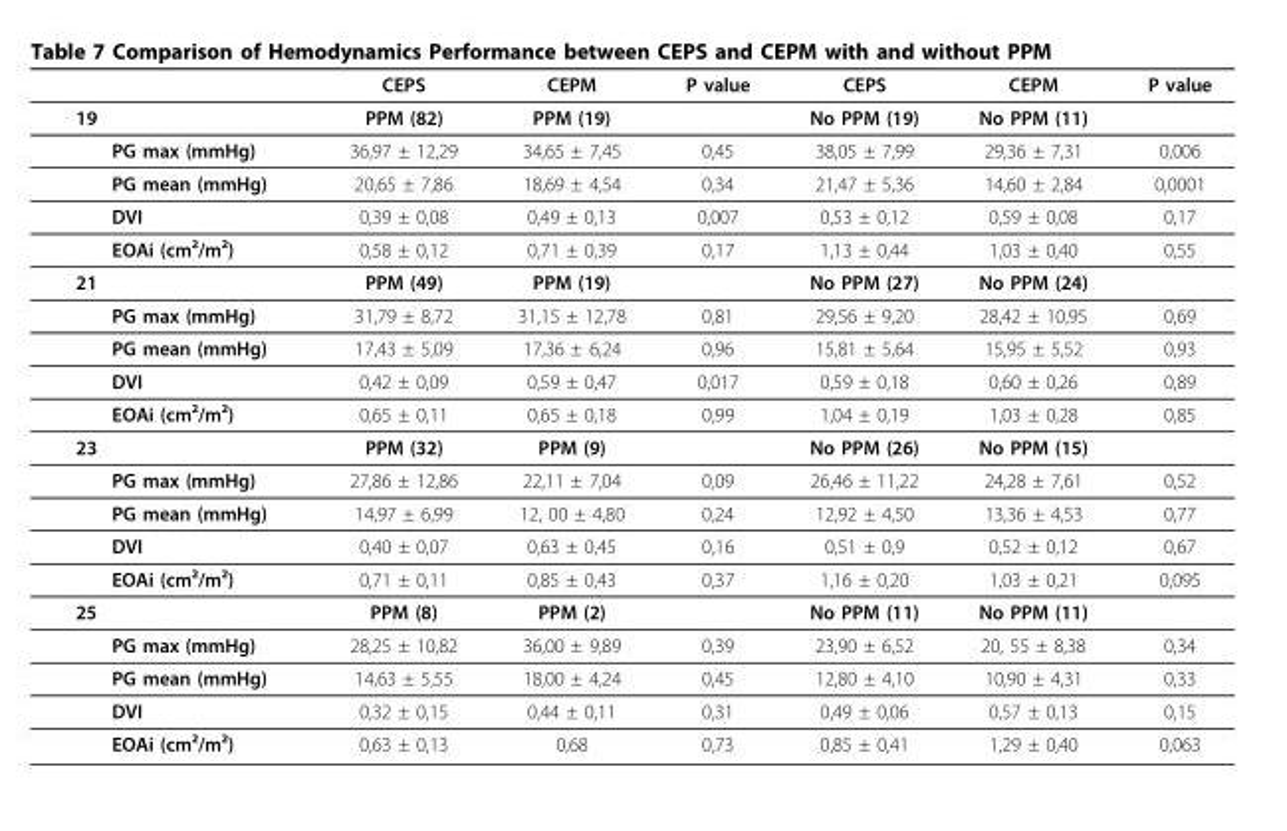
<table><thead><tr><td></td><td></td><td>CEPS</td><td>CEPM</td><td>P value</td><td>CEPS</td><td>CEPM</td><td>P value</td></tr></thead><tbody><tr><td rowspan="5">19</td><td></td><td>PPM (82)</td><td>PPM (19)</td><td></td><td>No PPM (19)</td><td>No PPM (11)</td><td></td></tr><tr><td>PG max (mmHg)</td><td>36,97 ± 12,29</td><td>34,65 ± 7,45</td><td>0,45</td><td>38,05 ± 7,99</td><td>29,36 ± 7,31</td><td>0,006</td></tr><tr><td>PG mean (mmHg)</td><td>20,65 ± 7,86</td><td>18,69 ± 4,54</td><td>0,34</td><td>21,47 ± 5,36</td><td>14,60 ± 2,84</td><td>0,0001</td></tr><tr><td>DVI</td><td>0,39 ± 0,08</td><td>0,49 ± 0,13</td><td>0,007</td><td>0,53 ± 0,12</td><td>0,59 ± 0,08</td><td>0,17</td></tr><tr><td>EOAi (cm²/m²)</td><td>0,58 ± 0,12</td><td>0,71 ± 0,39</td><td>0,17</td><td>1,13 ± 0,44</td><td>1,03 ± 0,40</td><td>0,55</td></tr><tr><td rowspan="5">21</td><td></td><td>PPM (49)</td><td>PPM (19)</td><td></td><td>No PPM (27)</td><td>No PPM (24)</td><td></td></tr><tr><td>PG max (mmHg)</td><td>31,79 ± 8,72</td><td>31,15 ± 12,78</td><td>0,81</td><td>29,56 ± 9,20</td><td>28,42 ± 10,95</td><td>0,69</td></tr><tr><td>PG mean (mmHg)</td><td>17,43 ± 5,09</td><td>17,36 ± 6,24</td><td>0,96</td><td>15,81 ± 5,64</td><td>15,95 ± 5,52</td><td>0,93</td></tr><tr><td>DVI</td><td>0,42 ± 0,09</td><td>0,59 ± 0,47</td><td>0,017</td><td>0,59 ± 0,18</td><td>0,60 ± 0,26</td><td>0,89</td></tr><tr><td>EOAi (cm²/m²)</td><td>0,65 ± 0,11</td><td>0,65 ± 0,18</td><td>0,99</td><td>1,04 ± 0,19</td><td>1,03 ± 0,28</td><td>0,85</td></tr><tr><td rowspan="5">23</td><td></td><td>PPM (32)</td><td>PPM (9)</td><td></td><td>No PPM (26)</td><td>No PPM (15)</td><td></td></tr><tr><td>PG max (mmHg)</td><td>27,86 ± 12,86</td><td>22,11 ± 7,04</td><td>0,09</td><td>26,46 ± 11,22</td><td>24,28 ± 7,61</td><td>0,52</td></tr><tr><td>PG mean (mmHg)</td><td>14,97 ± 6,99</td><td>12, 00 ± 4,80</td><td>0,24</td><td>12,92 ± 4,50</td><td>13,36 ± 4,53</td><td>0,77</td></tr><tr><td>DVI</td><td>0,40 ± 0,07</td><td>0,63 ± 0,45</td><td>0,16</td><td>0,51 ± 0,9</td><td>0,52 ± 0,12</td><td>0,67</td></tr><tr><td>EOAi (cm²/m²)</td><td>0,71 ± 0,11</td><td>0,85 ± 0,43</td><td>0,37</td><td>1,16 ± 0,20</td><td>1,03 ± 0,21</td><td>0,095</td></tr><tr><td rowspan="5">25</td><td></td><td>PPM (8)</td><td>PPM (2)</td><td></td><td>No PPM (11)</td><td>No PPM (11)</td><td></td></tr><tr><td>PG max (mmHg)</td><td>28,25 ± 10,82</td><td>36,00 ± 9,89</td><td>0,39</td><td>23,90 ± 6,52</td><td>20, 55 ± 8,38</td><td>0,34</td></tr><tr><td>PG mean (mmHg)</td><td>14,63 ± 5,55</td><td>18,00 ± 4,24</td><td>0,45</td><td>12,80 ± 4,10</td><td>10,90 ± 4,31</td><td>0,33</td></tr><tr><td>DVI</td><td>0,32 ± 0,15</td><td>0,44 ± 0,11</td><td>0,31</td><td>0,49 ± 0,06</td><td>0,57 ± 0,13</td><td>0,15</td></tr><tr><td>EOAi (cm²/m²)</td><td>0,63 ± 0,13</td><td>0,68</td><td>0,73</td><td>0,85 ± 0,41</td><td>1,29 ± 0,40</td><td>0,063</td></tr></tbody></table>